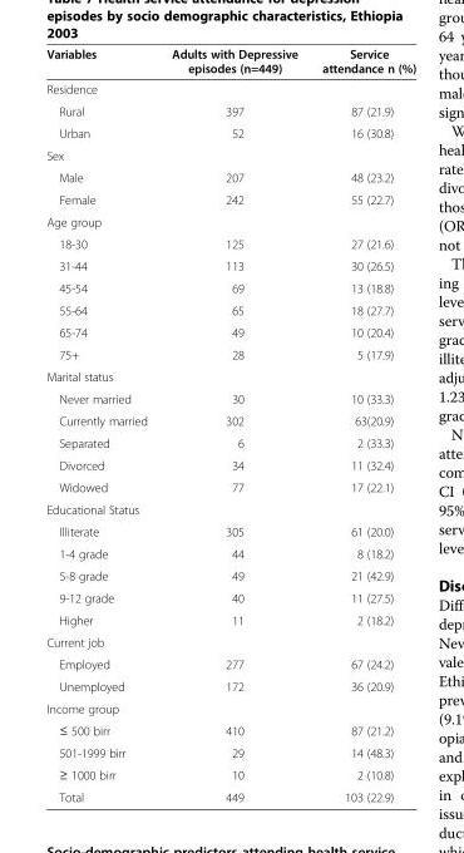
<table><thead><tr><td>Variables</td><td>Adults with Depressive episodes (n=449)</td><td>Service attendance n (%)</td></tr></thead><tbody><tr><td colspan="3">Residence</td></tr><tr><td>Rural</td><td>397</td><td>87 (21.9)</td></tr><tr><td>Urban</td><td>52</td><td>16 (30.8)</td></tr><tr><td colspan="3">Sex</td></tr><tr><td>Male</td><td>207</td><td>48 (23.2)</td></tr><tr><td>Female</td><td>242</td><td>55 (22.7)</td></tr><tr><td colspan="3">Age group</td></tr><tr><td>18-30</td><td>125</td><td>27 (21.6)</td></tr><tr><td>31-44</td><td>113</td><td>30 (26.5)</td></tr><tr><td>45-54</td><td>69</td><td>13 (18.8)</td></tr><tr><td>55-64</td><td>65</td><td>18 (27.7)</td></tr><tr><td>65-74</td><td>49</td><td>10 (20.4)</td></tr><tr><td>75+</td><td>28</td><td>5 (17.9)</td></tr><tr><td colspan="3">Marital status</td></tr><tr><td>Never married</td><td>30</td><td>10 (33.3)</td></tr><tr><td>Currently married</td><td>302</td><td>63(20.9)</td></tr><tr><td>Separated</td><td>6</td><td>2 (33.3)</td></tr><tr><td>Divorced</td><td>34</td><td>11 (32.4)</td></tr><tr><td>Widowed</td><td>77</td><td>17 (22.1)</td></tr><tr><td colspan="3">Educational Status</td></tr><tr><td>Illiterate</td><td>305</td><td>61 (20.0)</td></tr><tr><td>1-4 grade</td><td>44</td><td>8 (18.2)</td></tr><tr><td>5-8 grade</td><td>49</td><td>21 (42.9)</td></tr><tr><td>9-12 grade</td><td>40</td><td>11 (27.5)</td></tr><tr><td>Higher</td><td>11</td><td>2 (18.2)</td></tr><tr><td colspan="3">Current job</td></tr><tr><td>Employed</td><td>277</td><td>67 (24.2)</td></tr><tr><td>Unemployed</td><td>172</td><td>36 (20.9)</td></tr><tr><td colspan="3">Income group</td></tr><tr><td>≤ 500 birr</td><td>410</td><td>87 (21.2)</td></tr><tr><td>501-1999 birr</td><td>29</td><td>14 (48.3)</td></tr><tr><td>≥ 1000 birr</td><td>10</td><td>2 (10.8)</td></tr><tr><td>Total</td><td>449</td><td>103 (22.9)</td></tr></tbody></table>